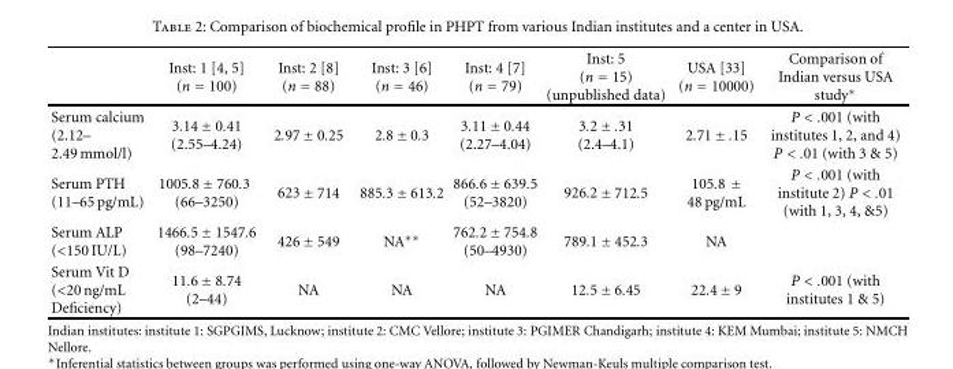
<table><thead><tr><td></td><td>Inst: 1 [4, 5] (n = 100)</td><td>Inst: 2 [8] (n = 88)</td><td>Inst: 3 [6] (n = 46)</td><td>Inst: 4 [7] (n = 79)</td><td>Inst: 5 (n = 15) (unpublished data)</td><td>USA [33] (n = 10000)</td><td>Comparison of Indian versus USA study∗</td></tr></thead><tbody><tr><td>Serum calcium (2.12– 2.49 mmol/l)</td><td>3.14 ± 0.41 (2.55–4.24)</td><td>2.97 ± 0.25</td><td>2.8 ± 0.3</td><td>3.11 ± 0.44 (2.27–4.04)</td><td>3.2 ± .31 (2.4–4.1)</td><td>2.71 ± .15</td><td>P &lt; .001 (with institutes 1, 2, and 4) P &lt; .01 (with 3 &amp; 5)</td></tr><tr><td>Serum PTH (11–65 pg/mL)</td><td>1005.8 ± 760.3 (66–3250)</td><td>623 ± 714</td><td>885.3 ± 613.2</td><td>866.6 ± 639.5 (52–3820)</td><td>926.2 ± 712.5</td><td>105.8 ± 48 pg/mL</td><td>P &lt; .001 (with institute 2) P &lt; .01 (with 1, 3, 4, &amp;5)</td></tr><tr><td>Serum ALP (&lt;150 IU/L)</td><td>1466.5 ± 1547.6 (98–7240)</td><td>426 ± 549</td><td>NA∗∗</td><td>762.2 ± 754.8 (50–4930)</td><td>789.1 ± 452.3</td><td>NA</td><td></td></tr><tr><td>Serum Vit D (&lt;20 ng/mL Deficiency)</td><td>11.6 ± 8.74 (2–44)</td><td>NA</td><td>NA</td><td>NA</td><td>12.5 ± 6.45</td><td>22.4 ± 9</td><td>P &lt; .001 (with institutes 1 &amp; 5)</td></tr></tbody></table>